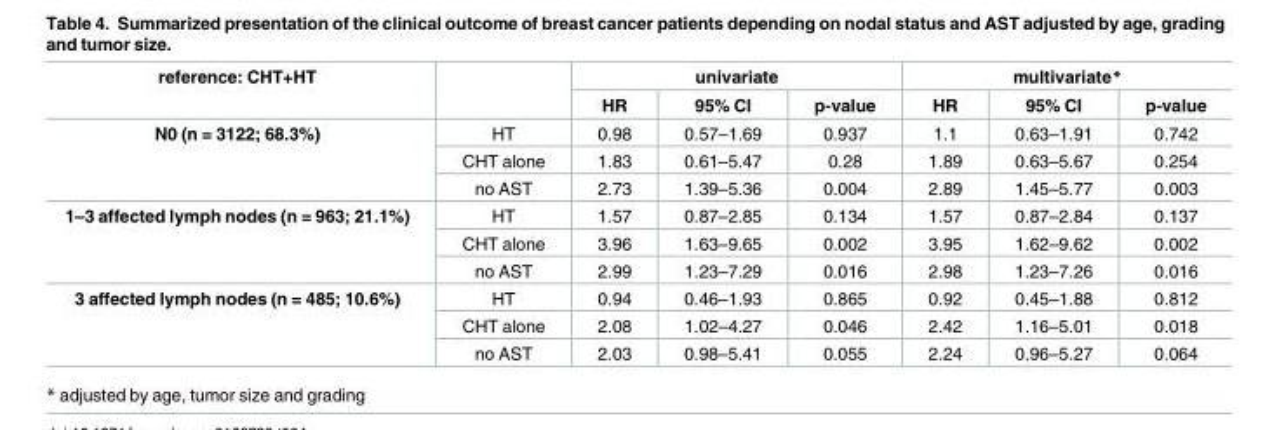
<table><thead><tr><td rowspan="2">reference: CHT+HT</td><td rowspan="2"></td><td colspan="3">univariate</td><td colspan="3">multivariate*</td></tr><tr><td>HR</td><td>95% CI</td><td>p-value</td><td>HR</td><td>95% CI</td><td>p-value</td></tr></thead><tbody><tr><td rowspan="3">N0 (n = 3122; 68.3%)</td><td>HT</td><td>0.98</td><td>0.57–1.69</td><td>0.937</td><td>1.1</td><td>0.63–1.91</td><td>0.742</td></tr><tr><td>CHT alone</td><td>1.83</td><td>0.61–5.47</td><td>0.28</td><td>1.89</td><td>0.63–5.67</td><td>0.254</td></tr><tr><td>no AST</td><td>2.73</td><td>1.39–5.36</td><td>0.004</td><td>2.89</td><td>1.45–5.77</td><td>0.003</td></tr><tr><td rowspan="3">1–3 affected lymph nodes (n = 963; 21.1%)</td><td>HT</td><td>1.57</td><td>0.87–2.85</td><td>0.134</td><td>1.57</td><td>0.87–2.84</td><td>0.137</td></tr><tr><td>CHT alone</td><td>3.96</td><td>1.63–9.65</td><td>0.002</td><td>3.95</td><td>1.62–9.62</td><td>0.002</td></tr><tr><td>no AST</td><td>2.99</td><td>1.23–7.29</td><td>0.016</td><td>2.98</td><td>1.23–7.26</td><td>0.016</td></tr><tr><td rowspan="3">3 affected lymph nodes (n = 485; 10.6%)</td><td>HT</td><td>0.94</td><td>0.46–1.93</td><td>0.865</td><td>0.92</td><td>0.45–1.88</td><td>0.812</td></tr><tr><td>CHT alone</td><td>2.08</td><td>1.02–4.27</td><td>0.046</td><td>2.42</td><td>1.16–5.01</td><td>0.018</td></tr><tr><td>no AST</td><td>2.03</td><td>0.98–5.41</td><td>0.055</td><td>2.24</td><td>0.96–5.27</td><td>0.064</td></tr></tbody></table>